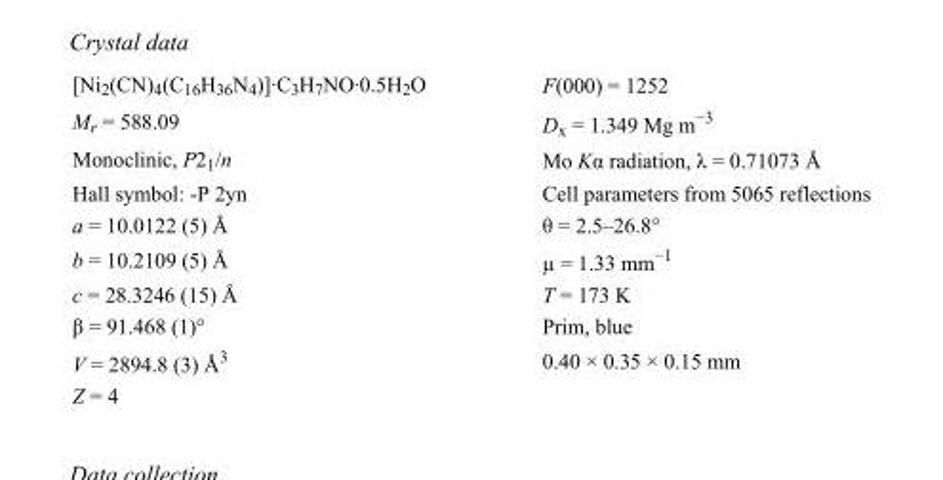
<table><tbody><tr><td>[Ni<sub>2</sub>(CN)<sub>4</sub>(C<sub>16</sub>H<sub>36</sub>N<sub>4</sub>)]·C<sub>3</sub>H<sub>7</sub>NO·0.5H<sub>2</sub>O</td><td>F(000) = 1252</td></tr><tr><td>M<sub>r</sub> = 588.09</td><td>D<sub>x</sub> = 1.349 Mg m<sup>−3</sup></td></tr><tr><td>Monoclinic, P2<sub>1</sub>/n</td><td>Mo Kα radiation, λ = 0.71073 Å</td></tr><tr><td>Hall symbol: -P 2yn</td><td>Cell parameters from 5065 reflections</td></tr><tr><td>a = 10.0122 (5) Å</td><td>θ = 2.5–26.8°</td></tr><tr><td>b = 10.2109 (5) Å</td><td>µ = 1.33 mm<sup>−1</sup></td></tr><tr><td>c = 28.3246 (15) Å</td><td>T = 173 K</td></tr><tr><td>β = 91.468 (1)°</td><td>Prim, blue</td></tr><tr><td>V = 2894.8 (3) Å<sup>3</sup></td><td>0.40 × 0.35 × 0.15 mm</td></tr><tr><td>Z = 4</td><td></td></tr></tbody></table>